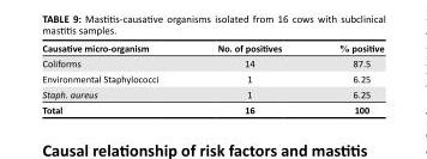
<table><thead><tr><td>Causative micro-organism</td><td>No. of positives</td><td>% positive</td></tr></thead><tbody><tr><td>Coliforms</td><td>14</td><td>87.5</td></tr><tr><td>Environmental Staphylococci</td><td>1</td><td>6.25</td></tr><tr><td>Staph. aureus</td><td>1</td><td>6.25</td></tr><tr><td>Total</td><td>16</td><td>100</td></tr></tbody></table>